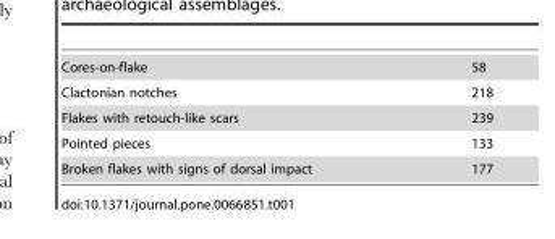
<table><tbody><tr><td>Cores-on-flake</td><td>58</td></tr><tr><td>Clactonian notches</td><td>218</td></tr><tr><td>Flakes with retouch-like scars</td><td>239</td></tr><tr><td>Pointed pieces</td><td>133</td></tr><tr><td>Broken flakes with signs of dorsal impact</td><td>177</td></tr></tbody></table>